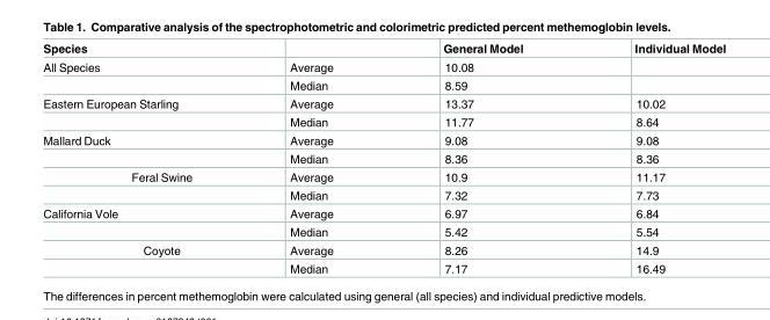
<table><thead><tr><td>Species</td><td></td><td>General Model</td><td>Individual Model</td></tr></thead><tbody><tr><td rowspan="2">All Species</td><td>Average</td><td>10.08</td><td></td></tr><tr><td>Median</td><td>8.59</td><td></td></tr><tr><td rowspan="2">Eastern European Starling</td><td>Average</td><td>13.37</td><td>10.02</td></tr><tr><td>Median</td><td>11.77</td><td>8.64</td></tr><tr><td rowspan="2">Mallard Duck</td><td>Average</td><td>9.08</td><td>9.08</td></tr><tr><td>Median</td><td>8.36</td><td>8.36</td></tr><tr><td rowspan="2">Feral Swine</td><td>Average</td><td>10.9</td><td>11.17</td></tr><tr><td>Median</td><td>7.32</td><td>7.73</td></tr><tr><td rowspan="2">California Vole</td><td>Average</td><td>6.97</td><td>6.84</td></tr><tr><td>Median</td><td>5.42</td><td>5.54</td></tr><tr><td rowspan="2">Coyote</td><td>Average</td><td>8.26</td><td>14.9</td></tr><tr><td>Median</td><td>7.17</td><td>16.49</td></tr></tbody></table>